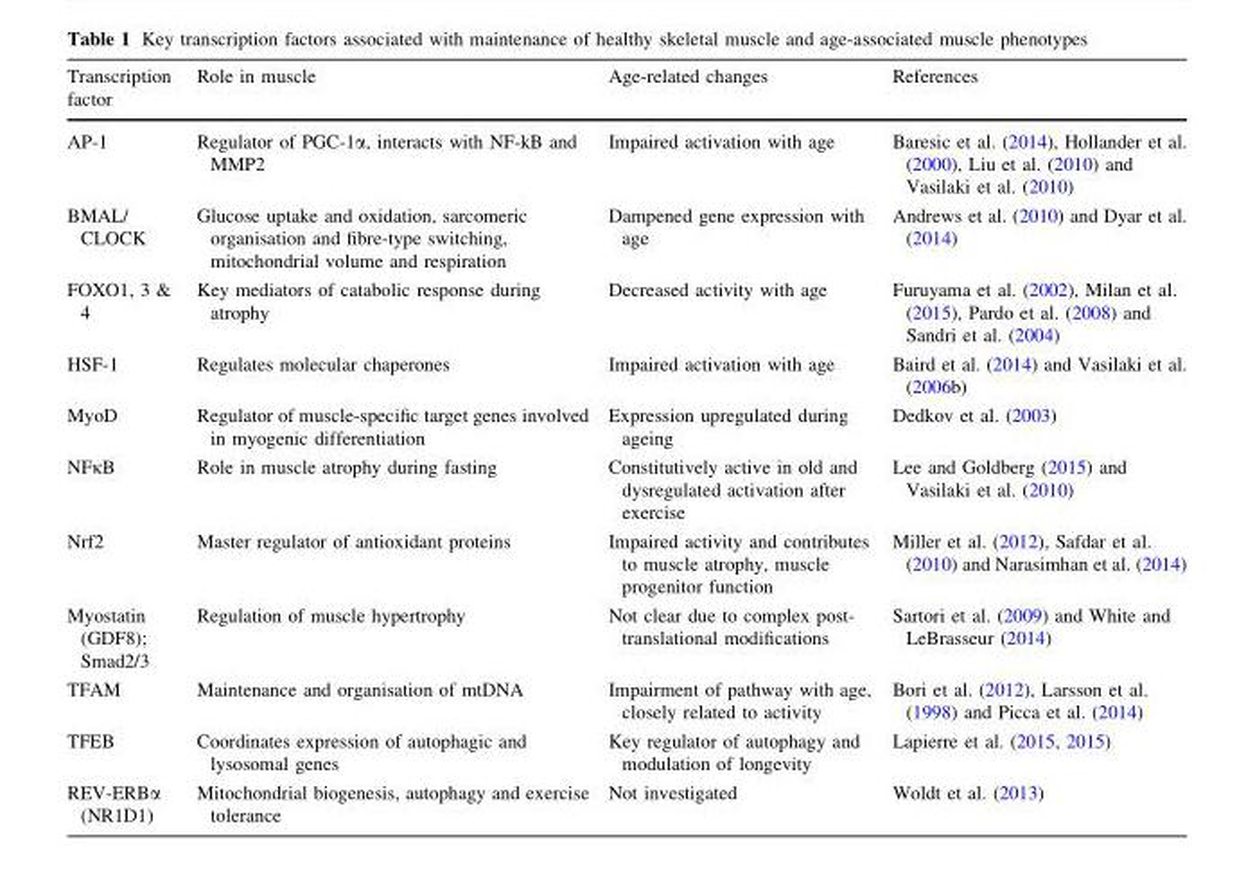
<table><thead><tr><td>Transcription factor</td><td>Role in muscle</td><td>Age-related changes</td><td>References</td></tr></thead><tbody><tr><td>AP-1</td><td>Regulator of PGC-1α, interacts with NF-kB and MMP2</td><td>Impaired activation with age</td><td>Baresic et al. (2014), Hollander et al. (2000), Liu et al. (2010) and Vasilaki et al. (2010)</td></tr><tr><td>BMAL/ CLOCK</td><td>Glucose uptake and oxidation, sarcomeric organisation and fibre-type switching, mitochondrial volume and respiration</td><td>Dampened gene expression with age</td><td>Andrews et al. (2010) and Dyar et al. (2014)</td></tr><tr><td>FOXO1, 3 &amp; 4</td><td>Key mediators of catabolic response during atrophy</td><td>Decreased activity with age</td><td>Furuyama et al. (2002), Milan et al. (2015), Pardo et al. (2008) and Sandri et al. (2004)</td></tr><tr><td>HSF-1</td><td>Regulates molecular chaperones</td><td>Impaired activation with age</td><td>Baird et al. (2014) and Vasilaki et al. (2006b)</td></tr><tr><td>MyoD</td><td>Regulator of muscle-specific target genes involved in myogenic differentiation</td><td>Expression upregulated during ageing</td><td>Dedkov et al. (2003)</td></tr><tr><td>NFκB</td><td>Role in muscle atrophy during fasting</td><td>Constitutively active in old and dysregulated activation after exercise</td><td>Lee and Goldberg (2015) and Vasilaki et al. (2010)</td></tr><tr><td>Nrf2</td><td>Master regulator of antioxidant proteins</td><td>Impaired activity and contributes to muscle atrophy, muscle progenitor function</td><td>Miller et al. (2012), Safdar et al. (2010) and Narasimhan et al. (2014)</td></tr><tr><td>Myostatin (GDF8); Smad2/3</td><td>Regulation of muscle hypertrophy</td><td>Not clear due to complex post- translational modifications</td><td>Sartori et al. (2009) and White and LeBrasseur (2014)</td></tr><tr><td>TFAM</td><td>Maintenance and organisation of mtDNA</td><td>Impairment of pathway with age, closely related to activity</td><td>Bori et al. (2012), Larsson et al. (1998) and Picca et al. (2014)</td></tr><tr><td>TFEB</td><td>Coordinates expression of autophagic and lysosomal genes</td><td>Key regulator of autophagy and modulation of longevity</td><td>Lapierre et al. (2015, 2015)</td></tr><tr><td>REV-ERBα (NR1D1)</td><td>Mitochondrial biogenesis, autophagy and exercise tolerance</td><td>Not investigated</td><td>Woldt et al. (2013)</td></tr></tbody></table>